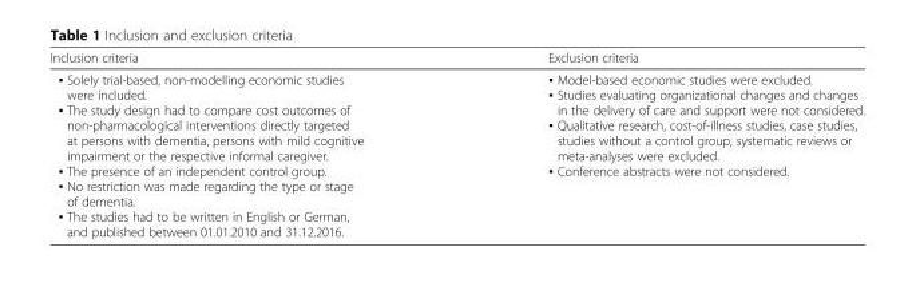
<table><thead><tr><td>Inclusion criteria</td><td>Exclusion criteria</td></tr></thead><tbody><tr><td>▪ Solely trial-based, non-modelling economic studies were included. ▪ The study design had to compare cost outcomes of non-pharmacological interventions directly targeted at persons with dementia, persons with mild cognitive impairment or the respective informal caregiver. ▪ The presence of an independent control group. ▪ No restriction was made regarding the type or stage of dementia. ▪ The studies had to be written in English or German, and published between 01.01.2010 and 31.12.2016.</td><td>▪ Model-based economic studies were excluded. ▪ Studies evaluating organizational changes and changes in the delivery of care and support were not considered. ▪ Qualitative research, cost-of-illness studies, case studies, studies without a control group, systematic reviews or meta-analyses were excluded. ▪ Conference abstracts were not considered.</td></tr></tbody></table>